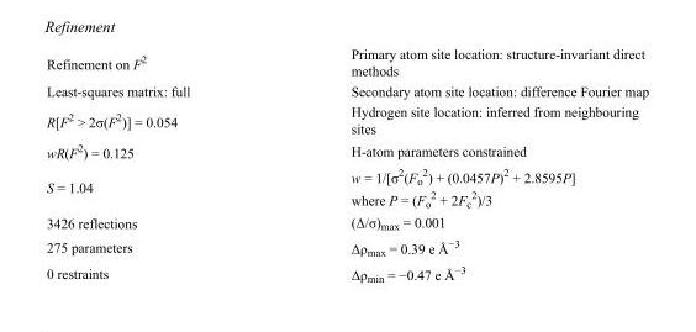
<table><tbody><tr><td>Refinement on F<sup>2</sup></td><td>Primary atom site location: structure-invariant direct methods</td></tr><tr><td>Least-squares matrix: full</td><td>Secondary atom site location: difference Fourier map</td></tr><tr><td>R[F<sup>2</sup> &gt; 2σ(F<sup>2</sup>)] = 0.054</td><td>Hydrogen site location: inferred from neighbouring sites</td></tr><tr><td>wR(F<sup>2</sup>) = 0.125</td><td>H-atom parameters constrained</td></tr><tr><td>S = 1.04</td><td>w = 1/[σ<sup>2</sup>(F<sub>o</sub> <sup>2</sup>) + (0.0457P)<sup>2</sup> + 2.8595P] where P = (F<sub>o</sub> <sup>2</sup> + 2F<sub>c</sub> <sup>2</sup>)/3</td></tr><tr><td>3426 reflections</td><td>(Δ/σ)<sub>max</sub> = 0.001</td></tr><tr><td>275 parameters</td><td>Δρ<sub>max</sub> = 0.39 e Å<sup>−3</sup></td></tr><tr><td>0 restraints</td><td>Δρ<sub>min</sub> = −0.47 e Å<sup>−3</sup></td></tr></tbody></table>